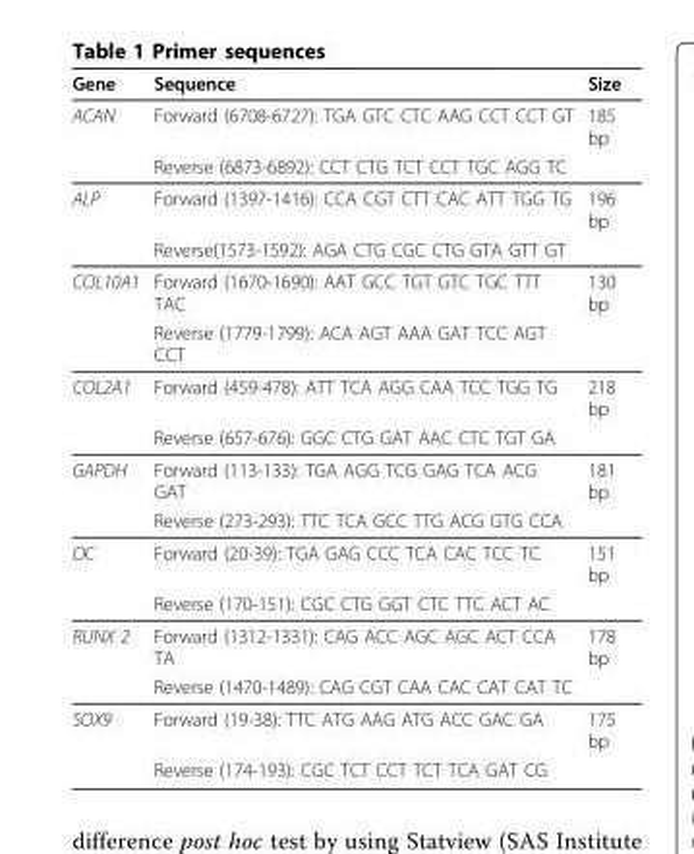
<table><thead><tr><td>Gene</td><td>Sequence</td><td>Size</td></tr></thead><tbody><tr><td rowspan="2">ACAN</td><td>Forward (6708-6727): TGA GTC CTC AAG CCT CCT GT</td><td>185 bp</td></tr><tr><td>Reverse (6873-6892): CCT CTG TCT CCT TGC AGG TC</td><td></td></tr><tr><td rowspan="2">ALP</td><td>Forward (1397-1416): CCA CGT CTT CAC ATT TGG TG</td><td>196 bp</td></tr><tr><td>Reverse(1573-1592): AGA CTG CGC CTG GTA GTT GT</td><td></td></tr><tr><td rowspan="2">COL10A1</td><td>Forward (1670-1690): AAT GCC TGT GTC TGC TTT TAC</td><td>130 bp</td></tr><tr><td>Reverse (1779-1799): ACA AGT AAA GAT TCC AGT CCT</td><td></td></tr><tr><td rowspan="2">COL2A1</td><td>Forward (459-478): ATT TCA AGG CAA TCC TGG TG</td><td>218 bp</td></tr><tr><td>Reverse (657-676): GGC CTG GAT AAC CTC TGT GA</td><td></td></tr><tr><td rowspan="2">GAPDH</td><td>Forward (113-133): TGA AGG TCG GAG TCA ACG GAT</td><td>181 bp</td></tr><tr><td>Reverse (273-293): TTC TCA GCC TTG ACG GTG CCA</td><td></td></tr><tr><td rowspan="2">OC</td><td>Forward (20-39): TGA GAG CCC TCA CAC TCC TC</td><td>151 bp</td></tr><tr><td>Reverse (170-151): CGC CTG GGT CTC TTC ACT AC</td><td></td></tr><tr><td rowspan="2">RUNX 2</td><td>Forward (1312-1331): CAG ACC AGC AGC ACT CCA TA</td><td>178 bp</td></tr><tr><td>Reverse (1470-1489): CAG CGT CAA CAC CAT CAT TC</td><td></td></tr><tr><td rowspan="2">SOX9</td><td>Forward (19-38): TTC ATG AAG ATG ACC GAC GA</td><td>175 bp</td></tr><tr><td>Reverse (174-193): CGC TCT CCT TCT TCA GAT CG</td><td></td></tr></tbody></table>